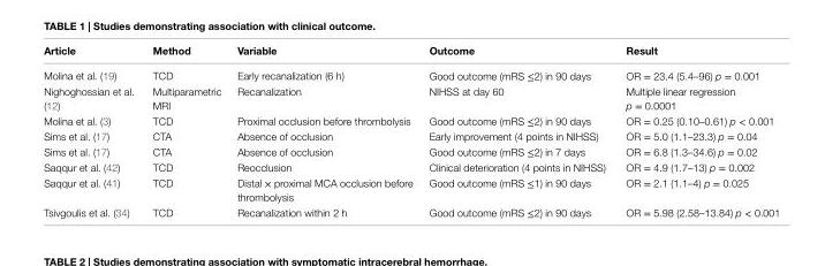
<table><thead><tr><td>Article</td><td>Method</td><td>variable</td><td>Outcome</td><td>Result</td></tr></thead><tbody><tr><td>Molina et al. (19)</td><td>TCD</td><td>Early recanalization (6 h)</td><td>Good outcome (mRS ≤2) in 90 days</td><td>OR = 23.4 (5.4–96) p = 0.001</td></tr><tr><td>Nighoghossian et al. (12)</td><td>Multiparametric MRI</td><td>Recanalization</td><td>NIHSS at day 60</td><td>Multiple linear regression p = 0.0001</td></tr><tr><td>Molina et al. (3)</td><td>TCD</td><td>Proximal occlusion before thrombolysis</td><td>Good outcome (mRS ≤2) in 90 days</td><td>OR = 0.25 (0.10–0.61) p &lt; 0.001</td></tr><tr><td>Sims et al. (17)</td><td>CTA</td><td>Absence of occlusion</td><td>Early improvement (4 points in NIHSS)</td><td>OR = 5.0 (1.1–23.3) p = 0.04</td></tr><tr><td>Sims et al. (17)</td><td>CTA</td><td>Absence of occlusion</td><td>Good outcome (mRS ≤2) in 7 days</td><td>OR = 6.8 (1.3–34.6) p = 0.02</td></tr><tr><td>Saqqur et al. (42)</td><td>TCD</td><td>Reocclusion</td><td>Clinical deterioration (4 points in NIHSS)</td><td>OR = 4.9 (1.7–13) p = 0.002</td></tr><tr><td>Saqqur et al. (41)</td><td>TCD</td><td>Distal × proximal MCA occlusion before thrombolysis</td><td>Good outcome (mRS ≤1) in 90 days</td><td>OR = 2.1 (1.1–4) p = 0.025</td></tr><tr><td>Tsivgoulis et al. (34)</td><td>TCD</td><td>Recanalization within 2 h</td><td>Good outcome (mRS ≤2) in 90 days</td><td>OR = 5.98 (2.58–13.84) p &lt; 0.001</td></tr></tbody></table>